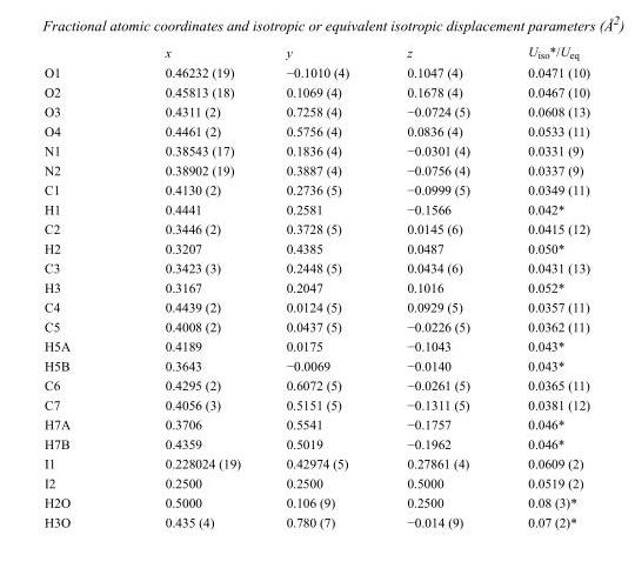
<table><thead><tr><td></td><td>x</td><td>y</td><td>z</td><td>U<sub>iso</sub>*/U<sub>eq</sub></td></tr></thead><tbody><tr><td>O1</td><td>0.46232 (19)</td><td>−0.1010 (4)</td><td>0.1047 (4)</td><td>0.0471 (10)</td></tr><tr><td>O2</td><td>0.45813 (18)</td><td>0.1069 (4)</td><td>0.1678 (4)</td><td>0.0467 (10)</td></tr><tr><td>O3</td><td>0.4311 (2)</td><td>0.7258 (4)</td><td>−0.0724 (5)</td><td>0.0608 (13)</td></tr><tr><td>O4</td><td>0.4461 (2)</td><td>0.5756 (4)</td><td>0.0836 (4)</td><td>0.0533 (11)</td></tr><tr><td>N1</td><td>0.38543 (17)</td><td>0.1836 (4)</td><td>−0.0301 (4)</td><td>0.0331 (9)</td></tr><tr><td>N2</td><td>0.38902 (19)</td><td>0.3887 (4)</td><td>−0.0756 (4)</td><td>0.0337 (9)</td></tr><tr><td>C1</td><td>0.4130 (2)</td><td>0.2736 (5)</td><td>−0.0999 (5)</td><td>0.0349 (11)</td></tr><tr><td>H1</td><td>0.4441</td><td>0.2581</td><td>−0.1566</td><td>0.042*</td></tr><tr><td>C2</td><td>0.3446 (2)</td><td>0.3728 (5)</td><td>0.0145 (6)</td><td>0.0415 (12)</td></tr><tr><td>H2</td><td>0.3207</td><td>0.4385</td><td>0.0487</td><td>0.050*</td></tr><tr><td>C3</td><td>0.3423 (3)</td><td>0.2448 (5)</td><td>0.0434 (6)</td><td>0.0431 (13)</td></tr><tr><td>H3</td><td>0.3167</td><td>0.2047</td><td>0.1016</td><td>0.052*</td></tr><tr><td>C4</td><td>0.4439 (2)</td><td>0.0124 (5)</td><td>0.0929 (5)</td><td>0.0357 (11)</td></tr><tr><td>C5</td><td>0.4008 (2)</td><td>0.0437 (5)</td><td>−0.0226 (5)</td><td>0.0362 (11)</td></tr><tr><td>H5A</td><td>0.4189</td><td>0.0175</td><td>−0.1043</td><td>0.043*</td></tr><tr><td>H5B</td><td>0.3643</td><td>−0.0069</td><td>−0.0140</td><td>0.043*</td></tr><tr><td>C6</td><td>0.4295 (2)</td><td>0.6072 (5)</td><td>−0.0261 (5)</td><td>0.0365 (11)</td></tr><tr><td>C7</td><td>0.4056 (3)</td><td>0.5151 (5)</td><td>−0.1311 (5)</td><td>0.0381 (12)</td></tr><tr><td>H7A</td><td>0.3706</td><td>0.5541</td><td>−0.1757</td><td>0.046*</td></tr><tr><td>H7B</td><td>0.4359</td><td>0.5019</td><td>−0.1962</td><td>0.046*</td></tr><tr><td>I1</td><td>0.228024 (19)</td><td>0.42974 (5)</td><td>0.27861 (4)</td><td>0.0609 (2)</td></tr><tr><td>I2</td><td>0.2500</td><td>0.2500</td><td>0.5000</td><td>0.0519 (2)</td></tr><tr><td>H2O</td><td>0.5000</td><td>0.106 (9)</td><td>0.2500</td><td>0.08 (3)*</td></tr><tr><td>H3O</td><td>0.435 (4)</td><td>0.780 (7)</td><td>−0.014 (9)</td><td>0.07 (2)*</td></tr></tbody></table>